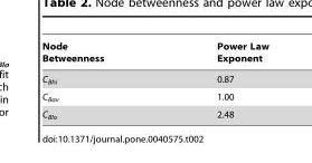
<table><thead><tr><td>Node Betweenness</td><td>Power Law Exponent</td></tr></thead><tbody><tr><td>C<sub>Bhi</sub></td><td>0.87</td></tr><tr><td>C<sub>Bav</sub></td><td>1.00</td></tr><tr><td>C<sub>Blo</sub></td><td>2.48</td></tr></tbody></table>